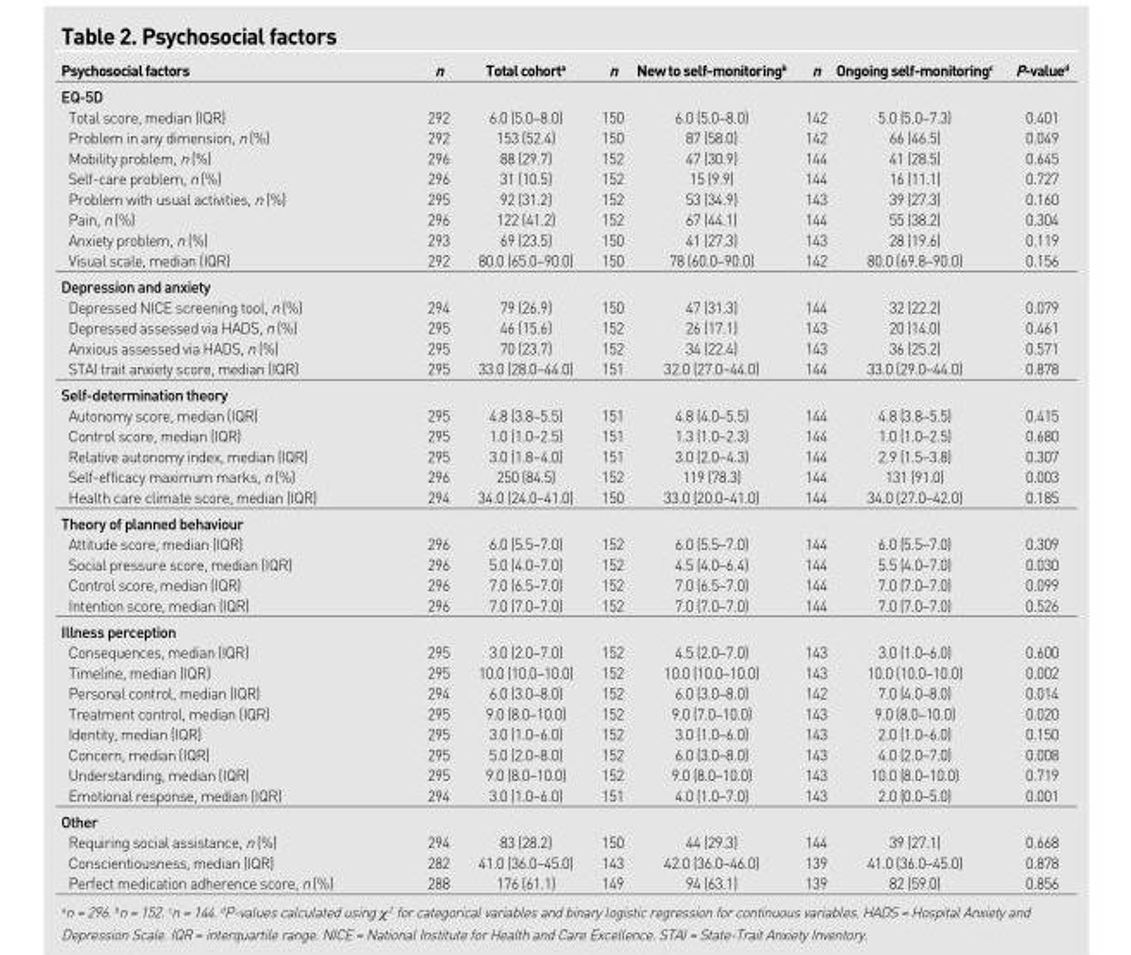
<table><thead><tr><td>Psychosocial factors</td><td>n</td><td>Total cohort<sup>a</sup></td><td>n</td><td>New to self-monitoring<sup>b</sup></td><td>n</td><td>Ongoing self-monitoring<sup>c</sup></td><td>P-value<sup>d</sup></td></tr></thead><tbody><tr><td colspan="8">EQ-5D</td></tr><tr><td>Total score, median (IQR)</td><td>292</td><td>6.0 (5.0–8.0)</td><td>150</td><td>6.0 (5.0–8.0)</td><td>142</td><td>5.0 (5.0–7.3)</td><td>0.401</td></tr><tr><td>Problem in any dimension, n (%)</td><td>292</td><td>153 (52.4)</td><td>150</td><td>87 (58.0)</td><td>142</td><td>66 (46.5)</td><td>0.049</td></tr><tr><td>Mobility problem, n (%)</td><td>296</td><td>88 (29.7)</td><td>152</td><td>47 (30.9)</td><td>144</td><td>41 (28.5)</td><td>0.645</td></tr><tr><td>Self-care problem, n (%)</td><td>296</td><td>31 (10.5)</td><td>152</td><td>15 (9.9)</td><td>144</td><td>16 (11.1)</td><td>0.727</td></tr><tr><td>Problem with usual activities, n (%)</td><td>295</td><td>92 (31.2)</td><td>152</td><td>53 (34.9)</td><td>143</td><td>39 (27.3)</td><td>0.160</td></tr><tr><td>Pain, n (%)</td><td>296</td><td>122 (41.2)</td><td>152</td><td>67 (44.1)</td><td>144</td><td>55 (38.2)</td><td>0.304</td></tr><tr><td>Anxiety problem, n (%)</td><td>293</td><td>69 (23.5)</td><td>150</td><td>41 (27.3)</td><td>143</td><td>28 (19.6)</td><td>0.119</td></tr><tr><td>Visual scale, median (IQR)</td><td>292</td><td>80.0 (65.0–90.0)</td><td>150</td><td>78 (60.0–90.0)</td><td>142</td><td>80.0 (69.8–90.0)</td><td>0.156</td></tr><tr><td colspan="8">Depression and anxiety</td></tr><tr><td>Depressed NICE screening tool, n (%)</td><td>294</td><td>79 (26.9)</td><td>150</td><td>47 (31.3)</td><td>144</td><td>32 (22.2)</td><td>0.079</td></tr><tr><td>Depressed assessed via HADS, n (%)</td><td>295</td><td>46 (15.6)</td><td>152</td><td>26 (17.1)</td><td>143</td><td>20 (14.0)</td><td>0.461</td></tr><tr><td>Anxious assessed via HADS, n (%)</td><td>295</td><td>70 (23.7)</td><td>152</td><td>34 (22.4)</td><td>143</td><td>36 (25.2)</td><td>0.571</td></tr><tr><td>STAI trait anxiety score, median (IQR)</td><td>295</td><td>33.0 (28.0–44.0)</td><td>151</td><td>32.0 (27.0–44.0)</td><td>144</td><td>33.0 (29.0–44.0)</td><td>0.878</td></tr><tr><td colspan="8">Self-determination theory</td></tr><tr><td>Autonomy score, median (IQR)</td><td>295</td><td>4.8 (3.8–5.5)</td><td>151</td><td>4.8 (4.0–5.5)</td><td>144</td><td>4.8 (3.8–5.5)</td><td>0.415</td></tr><tr><td>Control score, median (IQR)</td><td>295</td><td>1.0 (1.0–2.5)</td><td>151</td><td>1.3 (1.0–2.3)</td><td>144</td><td>1.0 (1.0–2.5)</td><td>0.680</td></tr><tr><td>Relative autonomy index, median (IQR)</td><td>295</td><td>3.0 (1.8–4.0)</td><td>151</td><td>3.0 (2.0–4.3)</td><td>144</td><td>2.9 (1.5–3.8)</td><td>0.307</td></tr><tr><td>Self-efficacy maximum marks, n (%)</td><td>296</td><td>250 (84.5)</td><td>152</td><td>119 (78.3)</td><td>144</td><td>131 (91.0)</td><td>0.003</td></tr><tr><td>Health care climate score, median (IQR)</td><td>294</td><td>34.0 (24.0–41.0)</td><td>150</td><td>33.0 (20.0–41.0)</td><td>144</td><td>34.0 (27.0–42.0)</td><td>0.185</td></tr><tr><td colspan="8">Theory of planned behaviour</td></tr><tr><td>Attitude score, median (IQR)</td><td>296</td><td>6.0 (5.5–7.0)</td><td>152</td><td>6.0 (5.5–7.0)</td><td>144</td><td>6.0 (5.5–7.0)</td><td>0.309</td></tr><tr><td>Social pressure score, median (IQR)</td><td>296</td><td>5.0 (4.0–7.0)</td><td>152</td><td>4.5 (4.0–6.4)</td><td>144</td><td>5.5 (4.0–7.0)</td><td>0.030</td></tr><tr><td>Control score, median (IQR)</td><td>296</td><td>7.0 (6.5–7.0)</td><td>152</td><td>7.0 (6.5–7.0)</td><td>144</td><td>7.0 (7.0–7.0)</td><td>0.099</td></tr><tr><td>Intention score, median (IQR)</td><td>296</td><td>7.0 (7.0–7.0)</td><td>152</td><td>7.0 (7.0–7.0)</td><td>144</td><td>7.0 (7.0–7.0)</td><td>0.526</td></tr><tr><td colspan="8">Illness perception</td></tr><tr><td>Consequences, median (IQR)</td><td>295</td><td>3.0 (2.0–7.0)</td><td>152</td><td>4.5 (2.0–7.0)</td><td>143</td><td>3.0 (1.0–6.0)</td><td>0.600</td></tr><tr><td>Timeline, median (IQR)</td><td>295</td><td>10.0 (10.0–10.0)</td><td>152</td><td>10.0 (10.0–10.0)</td><td>143</td><td>10.0 (10.0–10.0)</td><td>0.002</td></tr><tr><td>Personal control, median (IQR)</td><td>294</td><td>6.0 (3.0–8.0)</td><td>152</td><td>6.0 (3.0–8.0)</td><td>142</td><td>7.0 (4.0–8.0)</td><td>0.014</td></tr><tr><td>Treatment control, median (IQR)</td><td>295</td><td>9.0 (8.0–10.0)</td><td>152</td><td>9.0 (7.0–10.0)</td><td>143</td><td>9.0 (8.0–10.0)</td><td>0.020</td></tr><tr><td>Identity, median (IQR)</td><td>295</td><td>3.0 (1.0–6.0)</td><td>152</td><td>3.0 (1.0–6.0)</td><td>143</td><td>2.0 (1.0–6.0)</td><td>0.150</td></tr><tr><td>Concern, median (IQR)</td><td>295</td><td>5.0 (2.0–8.0)</td><td>152</td><td>6.0 (3.0–8.0)</td><td>143</td><td>4.0 (2.0–7.0)</td><td>0.008</td></tr><tr><td>Understanding, median (IQR)</td><td>295</td><td>9.0 (8.0–10.0)</td><td>152</td><td>9.0 (8.0–10.0)</td><td>143</td><td>10.0 (8.0–10.0)</td><td>0.719</td></tr><tr><td>Emotional response, median (IQR)</td><td>294</td><td>3.0 (1.0–6.0)</td><td>151</td><td>4.0 (1.0–7.0)</td><td>143</td><td>2.0 (0.0–5.0)</td><td>0.001</td></tr><tr><td colspan="8">Other</td></tr><tr><td>Requiring social assistance, n (%)</td><td>294</td><td>83 (28.2)</td><td>150</td><td>44 (29.3)</td><td>144</td><td>39 (27.1)</td><td>0.668</td></tr><tr><td>Conscientiousness, median (IQR)</td><td>282</td><td>41.0 (36.0–45.0)</td><td>143</td><td>42.0 (36.0–46.0)</td><td>139</td><td>41.0 (36.0–45.0)</td><td>0.878</td></tr><tr><td>Perfect medication adherence score, n (%)</td><td>288</td><td>176 (61.1)</td><td>149</td><td>94 (63.1)</td><td>139</td><td>82 (59.0)</td><td>0.856</td></tr></tbody></table>